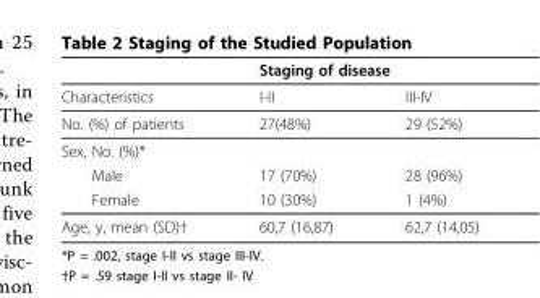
<table><thead><tr><td rowspan="2">Characteristics</td><td colspan="2">Staging of disease</td></tr><tr><td>I-II</td><td>III-IV</td></tr></thead><tbody><tr><td>No. (%) of patients</td><td>27(48%)</td><td>29 (52%)</td></tr><tr><td colspan="3">Sex, No. (%)*</td></tr><tr><td>Male</td><td>17 (70%)</td><td>28 (96%)</td></tr><tr><td>Female</td><td>10 (30%)</td><td>1 (4%)</td></tr><tr><td>Age, y, mean (SD)†</td><td>60,7 (16,87)</td><td>62,7 (14,05)</td></tr></tbody></table>